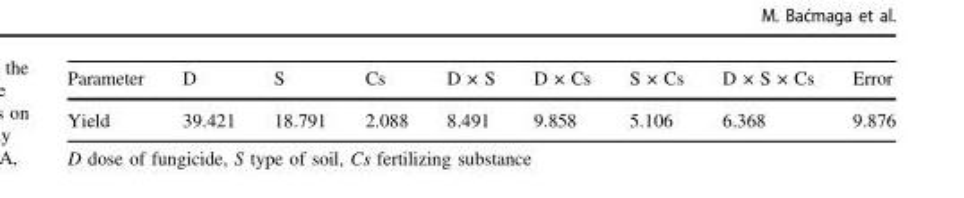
<table><thead><tr><td>Parameter</td><td>D</td><td>S</td><td>Cs</td><td>D × S</td><td>D × Cs</td><td>S × Cs</td><td>D × S × Cs</td><td>Error</td></tr></thead><tbody><tr><td>Yield</td><td>39.421</td><td>18.791</td><td>2.088</td><td>8.491</td><td>9.858</td><td>5.106</td><td>6.368</td><td>9.876</td></tr></tbody></table>